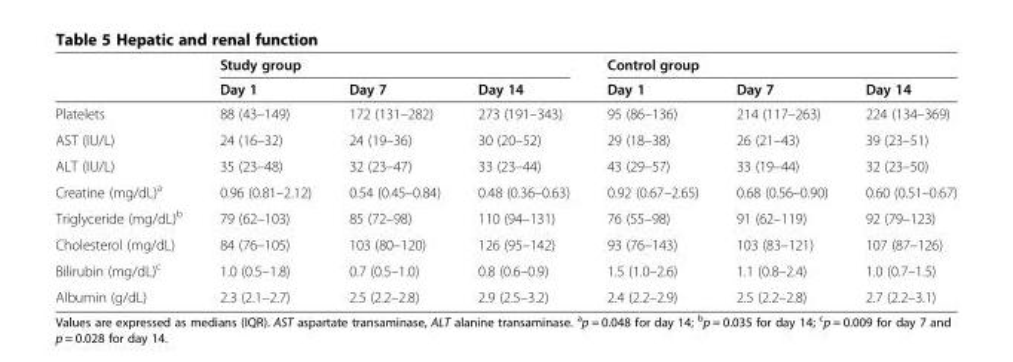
<table><thead><tr><td rowspan="2"></td><td colspan="3">Study group</td><td colspan="3">Control group</td></tr><tr><td>Day 1</td><td>Day 7</td><td>Day 14</td><td>Day 1</td><td>Day 7</td><td>Day 14</td></tr></thead><tbody><tr><td>Platelets</td><td>88 (43–149)</td><td>172 (131–282)</td><td>273 (191–343)</td><td>95 (86–136)</td><td>214 (117–263)</td><td>224 (134–369)</td></tr><tr><td>AST (IU/L)</td><td>24 (16–32)</td><td>24 (19–36)</td><td>30 (20–52)</td><td>29 (18–38)</td><td>26 (21–43)</td><td>39 (23–51)</td></tr><tr><td>ALT (IU/L)</td><td>35 (23–48)</td><td>32 (23–47)</td><td>33 (23–44)</td><td>43 (29–57)</td><td>33 (19–44)</td><td>32 (23–50)</td></tr><tr><td>Creatine (mg/dL)<sup>a</sup></td><td>0.96 (0.81–2.12)</td><td>0.54 (0.45–0.84)</td><td>0.48 (0.36–0.63)</td><td>0.92 (0.67–2.65)</td><td>0.68 (0.56–0.90)</td><td>0.60 (0.51–0.67)</td></tr><tr><td>Triglyceride (mg/dL)<sup>b</sup></td><td>79 (62–103)</td><td>85 (72–98)</td><td>110 (94–131)</td><td>76 (55–98)</td><td>91 (62–119)</td><td>92 (79–123)</td></tr><tr><td>Cholesterol (mg/dL)</td><td>84 (76–105)</td><td>103 (80–120)</td><td>126 (95–142)</td><td>93 (76–143)</td><td>103 (83–121)</td><td>107 (87–126)</td></tr><tr><td>Bilirubin (mg/dL)<sup>c</sup></td><td>1.0 (0.5–1.8)</td><td>0.7 (0.5–1.0)</td><td>0.8 (0.6–0.9)</td><td>1.5 (1.0–2.6)</td><td>1.1 (0.8–2.4)</td><td>1.0 (0.7–1.5)</td></tr><tr><td>Albumin (g/dL)</td><td>2.3 (2.1–2.7)</td><td>2.5 (2.2–2.8)</td><td>2.9 (2.5–3.2)</td><td>2.4 (2.2–2.9)</td><td>2.5 (2.2–2.8)</td><td>2.7 (2.2–3.1)</td></tr></tbody></table>